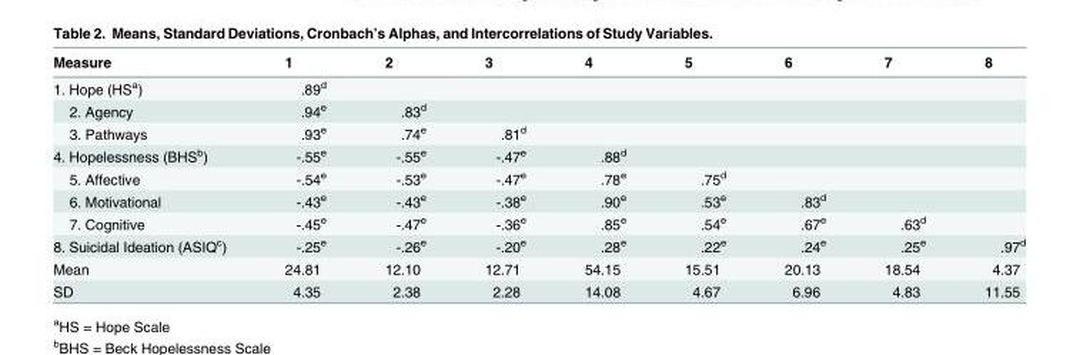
<table><thead><tr><td>Measure</td><td>1</td><td>2</td><td>3</td><td>4</td><td>5</td><td>6</td><td>7</td><td>8</td></tr></thead><tbody><tr><td>1. Hope (HS<sup>a</sup>)</td><td>.89<sup>d</sup></td><td></td><td></td><td></td><td></td><td></td><td></td><td></td></tr><tr><td>2. Agency</td><td>.94<sup>e</sup></td><td>.83<sup>d</sup></td><td></td><td></td><td></td><td></td><td></td><td></td></tr><tr><td>3. Pathways</td><td>.93<sup>e</sup></td><td>.74<sup>e</sup></td><td>.81<sup>d</sup></td><td></td><td></td><td></td><td></td><td></td></tr><tr><td>4. Hopelessness (BHS<sup>b</sup>)</td><td>-.55<sup>e</sup></td><td>-.55<sup>e</sup></td><td>-.47<sup>e</sup></td><td>.88<sup>d</sup></td><td></td><td></td><td></td><td></td></tr><tr><td>5. Affective</td><td>-.54<sup>e</sup></td><td>-.53<sup>e</sup></td><td>-.47<sup>e</sup></td><td>.78<sup>e</sup></td><td>.75<sup>d</sup></td><td></td><td></td><td></td></tr><tr><td>6. Motivational</td><td>-.43<sup>e</sup></td><td>-.43<sup>e</sup></td><td>-.38<sup>e</sup></td><td>.90<sup>e</sup></td><td>.53<sup>e</sup></td><td>.83<sup>d</sup></td><td></td><td></td></tr><tr><td>7. Cognitive</td><td>-.45<sup>e</sup></td><td>-.47<sup>e</sup></td><td>-.36<sup>e</sup></td><td>.85<sup>e</sup></td><td>.54<sup>e</sup></td><td>.67<sup>e</sup></td><td>.63<sup>d</sup></td><td></td></tr><tr><td>8. Suicidal Ideation (ASIQ<sup>c</sup>)</td><td>-.25<sup>e</sup></td><td>-.26<sup>e</sup></td><td>-.20<sup>e</sup></td><td>.28<sup>e</sup></td><td>.22<sup>e</sup></td><td>.24<sup>e</sup></td><td>.25<sup>e</sup></td><td>.97<sup>d</sup></td></tr><tr><td>Mean</td><td>24.81</td><td>12.10</td><td>12.71</td><td>54.15</td><td>15.51</td><td>20.13</td><td>18.54</td><td>4.37</td></tr><tr><td>SD</td><td>4.35</td><td>2.38</td><td>2.28</td><td>14.08</td><td>4.67</td><td>6.96</td><td>4.83</td><td>11.55</td></tr></tbody></table>